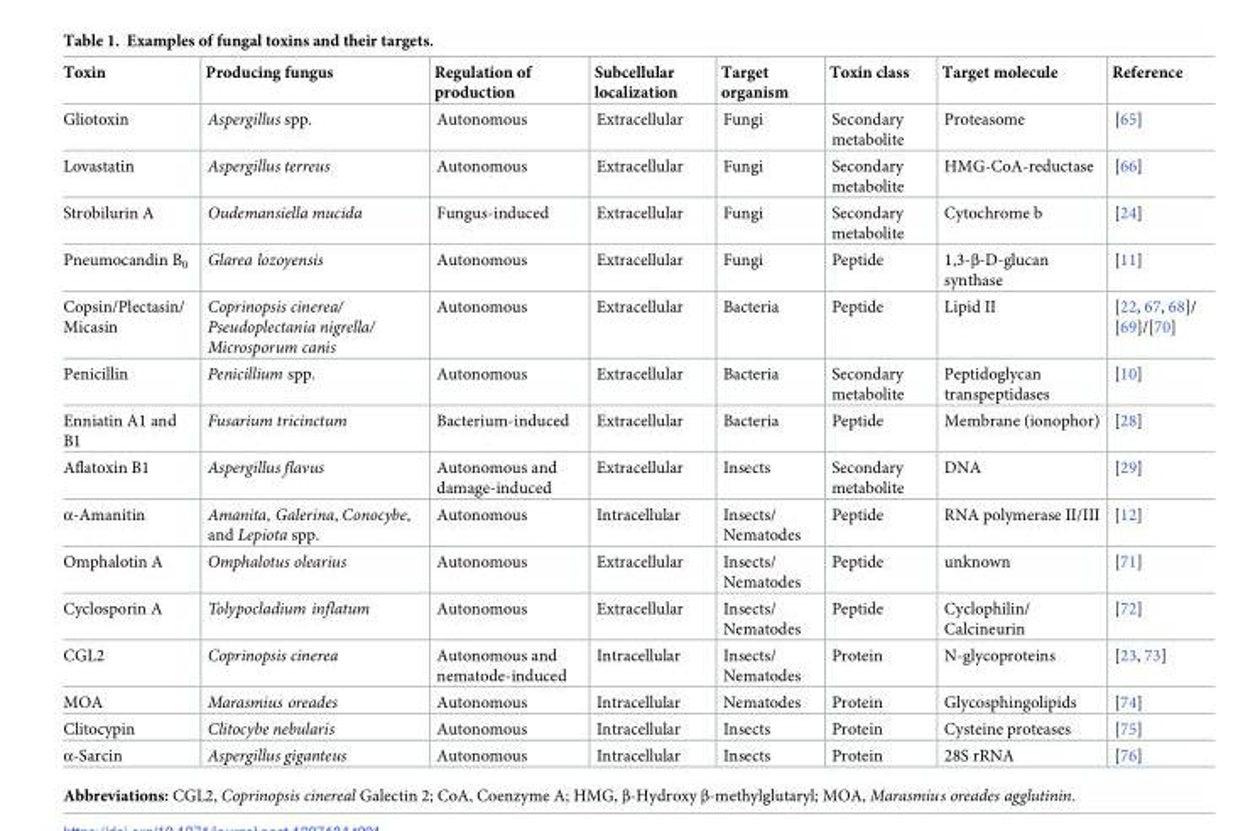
<table><thead><tr><td>Toxin</td><td>Producing fungus</td><td>Regulation of production</td><td>Subcellular localization</td><td>Target organism</td><td>Toxin class</td><td>Target molecule</td><td>Reference</td></tr></thead><tbody><tr><td>Gliotoxin</td><td>Aspergillus spp.</td><td>Autonomous</td><td>Extracellular</td><td>Fungi</td><td>Secondary metabolite</td><td>Proteasome</td><td>[65]</td></tr><tr><td>Lovastatin</td><td>Aspergillus terreus</td><td>Autonomous</td><td>Extracellular</td><td>Fungi</td><td>Secondary metabolite</td><td>HMG-CoA-reductase</td><td>[66]</td></tr><tr><td>Strobilurin A</td><td>Oudemansiella mucida</td><td>Fungus-induced</td><td>Extracellular</td><td>Fungi</td><td>Secondary metabolite</td><td>Cytochrome b</td><td>[24]</td></tr><tr><td>Pneumocandin B<sub>0</sub></td><td>Glarea lozoyensis</td><td>Autonomous</td><td>Extracellular</td><td>Fungi</td><td>Peptide</td><td>1,3-β-D-glucan synthase</td><td>[11]</td></tr><tr><td>Copsin/Plectasin/ Micasin</td><td>Coprinopsis cinerea/ Pseudoplectania nigrella/ Microsporum canis</td><td>Autonomous</td><td>Extracellular</td><td>Bacteria</td><td>Peptide</td><td>Lipid II</td><td>[22, 67, 68]/ [69]/[70]</td></tr><tr><td>Penicillin</td><td>Penicillium spp.</td><td>Autonomous</td><td>Extracellular</td><td>Bacteria</td><td>Secondary metabolite</td><td>Peptidoglycan transpeptidases</td><td>[10]</td></tr><tr><td>Enniatin A1 and B1</td><td>Fusarium tricinctum</td><td>Bacterium-induced</td><td>Extracellular</td><td>Bacteria</td><td>Peptide</td><td>Membrane (ionophor)</td><td>[28]</td></tr><tr><td>Aflatoxin B1</td><td>Aspergillus flavus</td><td>Autonomous and damage-induced</td><td>Extracellular</td><td>Insects</td><td>Secondary metabolite</td><td>DNA</td><td>[29]</td></tr><tr><td>α-Amanitin</td><td>Amanita, Galerina, Conocybe, and Lepiota spp.</td><td>Autonomous</td><td>Intracellular</td><td>Insects/ Nematodes</td><td>Peptide</td><td>RNA polymerase II/III</td><td>[12]</td></tr><tr><td>Omphalotin A</td><td>Omphalotus olearius</td><td>Autonomous</td><td>Extracellular</td><td>Insects/ Nematodes</td><td>Peptide</td><td>unknown</td><td>[71]</td></tr><tr><td>Cyclosporin A</td><td>Tolypocladium inflatum</td><td>Autonomous</td><td>Extracellular</td><td>Insects/ Nematodes</td><td>Peptide</td><td>Cyclophilin/ Calcineurin</td><td>[72]</td></tr><tr><td>CGL2</td><td>Coprinopsis cinerea</td><td>Autonomous and nematode-induced</td><td>Intracellular</td><td>Insects/ Nematodes</td><td>Protein</td><td>N-glycoproteins</td><td>[23, 73]</td></tr><tr><td>MOA</td><td>Marasmius oreades</td><td>Autonomous</td><td>Intracellular</td><td>Nematodes</td><td>Protein</td><td>Glycosphingolipids</td><td>[74]</td></tr><tr><td>Clitocypin</td><td>Clitocybe nebularis</td><td>Autonomous</td><td>Intracellular</td><td>Insects</td><td>Protein</td><td>Cysteine proteases</td><td>[75]</td></tr><tr><td>α-Sarcin</td><td>Aspergillus giganteus</td><td>Autonomous</td><td>Intracellular</td><td>Insects</td><td>Protein</td><td>28S rRNA</td><td>[76]</td></tr></tbody></table>